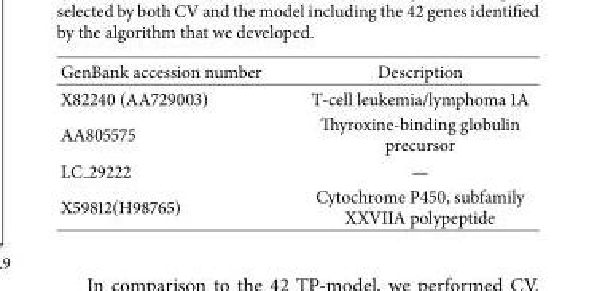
<table><thead><tr><td>GenBank accession number</td><td>Description</td></tr></thead><tbody><tr><td>X82240 (AA729003)</td><td>T-cell leukemia/lymphoma 1A</td></tr><tr><td>AA805575</td><td>Thyroxine-binding globulin precursor</td></tr><tr><td>LC 29222</td><td>—</td></tr><tr><td>X59812(H98765)</td><td>Cytochrome P450, subfamily XXVIIA polypeptide</td></tr></tbody></table>